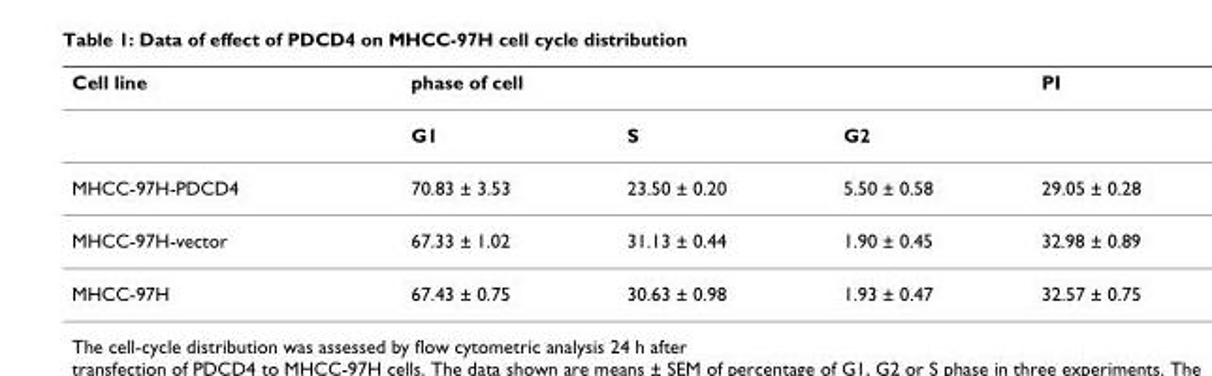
<table><thead><tr><td rowspan="2">Cell line</td><td colspan="3">phase of cell</td><td rowspan="2">PI</td></tr><tr><td>G1</td><td>S</td><td>G2</td></tr></thead><tbody><tr><td>MHCC-97H-PDCD4</td><td>70.83 ± 3.53</td><td>23.50 ± 0.20</td><td>5.50 ± 0.58</td><td>29.05 ± 0.28</td></tr><tr><td>MHCC-97H-vector</td><td>67.33 ± 1.02</td><td>31.13 ± 0.44</td><td>1.90 ± 0.45</td><td>32.98 ± 0.89</td></tr><tr><td>MHCC-97H</td><td>67.43 ± 0.75</td><td>30.63 ± 0.98</td><td>1.93 ± 0.47</td><td>32.57 ± 0.75</td></tr></tbody></table>